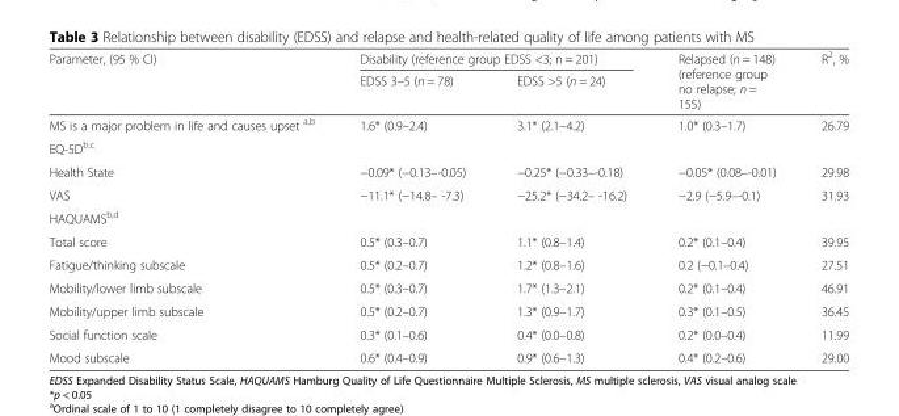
<table><thead><tr><td rowspan="2">Parameter, (95 % CI)</td><td colspan="2">Disability (reference group EDSS &lt;3; n = 201)</td><td rowspan="2">Relapsed (n = 148) (reference group no relapse; n = 155)</td><td rowspan="2">R<sup>2</sup>, %</td></tr><tr><td>EDSS 3–5 (n = 78)</td><td>EDSS &gt;5 (n = 24)</td></tr></thead><tbody><tr><td>MS is a major problem in life and causes upset <sup>a,b</sup></td><td>1.6* (0.9–2.4)</td><td>3.1* (2.1–4.2)</td><td>1.0* (0.3–1.7)</td><td>26.79</td></tr><tr><td colspan="5">EQ-5D<sup>b,c</sup></td></tr><tr><td>Health State</td><td>−0.09* (−0.13–-0.05)</td><td>−0.25* (−0.33–-0.18)</td><td>−0.05* (0.08–-0.01)</td><td>29.98</td></tr><tr><td>VAS</td><td>−11.1* (−14.8– -7.3)</td><td>−25.2* (−34.2– -16.2)</td><td>−2.9 (−5.9–-0.1)</td><td>31.93</td></tr><tr><td colspan="5">HAQUAMS<sup>b,d</sup></td></tr><tr><td>Total score</td><td>0.5* (0.3–0.7)</td><td>1.1* (0.8–1.4)</td><td>0.2* (0.1–0.4)</td><td>39.95</td></tr><tr><td>Fatigue/thinking subscale</td><td>0.5* (0.2–0.7)</td><td>1.2* (0.8–1.6)</td><td>0.2 (−0.1–0.4)</td><td>27.51</td></tr><tr><td>Mobility/lower limb subscale</td><td>0.5* (0.3–0.7)</td><td>1.7* (1.3–2.1)</td><td>0.2* (0.1–0.4)</td><td>46.91</td></tr><tr><td>Mobility/upper limb subscale</td><td>0.5* (0.2–0.7)</td><td>1.3* (0.9–1.7)</td><td>0.3* (0.1–0.5)</td><td>36.45</td></tr><tr><td>Social function scale</td><td>0.3* (0.1–0.6)</td><td>0.4* (0.0–0.8)</td><td>0.2* (0.0–0.4)</td><td>11.99</td></tr><tr><td>Mood subscale</td><td>0.6* (0.4–0.9)</td><td>0.9* (0.6–1.3)</td><td>0.4* (0.2–0.6)</td><td>29.00</td></tr></tbody></table>